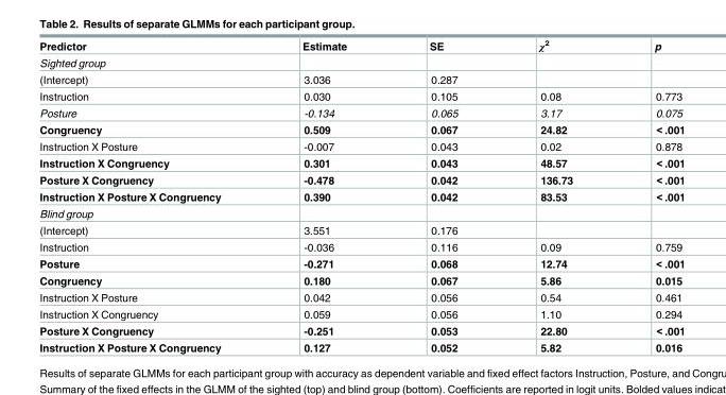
<table><thead><tr><td>Predictor</td><td>Estimate</td><td>SE</td><td>χ<sup>2</sup></td><td>p</td></tr></thead><tbody><tr><td colspan="5">Sighted group</td></tr><tr><td>(Intercept)</td><td>3.036</td><td>0.287</td><td></td><td></td></tr><tr><td>Instruction</td><td>0.030</td><td>0.105</td><td>0.08</td><td>0.773</td></tr><tr><td>Posture</td><td>-0.134</td><td>0.065</td><td>3.17</td><td>0.075</td></tr><tr><td>Congruency</td><td>0.509</td><td>0.067</td><td>24.82</td><td>&lt; .001</td></tr><tr><td>Instruction X Posture</td><td>-0.007</td><td>0.043</td><td>0.02</td><td>0.878</td></tr><tr><td>Instruction X Congruency</td><td>0.301</td><td>0.043</td><td>48.57</td><td>&lt; .001</td></tr><tr><td>Posture X Congruency</td><td>-0.478</td><td>0.042</td><td>136.73</td><td>&lt; .001</td></tr><tr><td>Instruction X Posture X Congruency</td><td>0.390</td><td>0.042</td><td>83.53</td><td>&lt; .001</td></tr><tr><td colspan="5">Blind group</td></tr><tr><td>(Intercept)</td><td>3.551</td><td>0.176</td><td></td><td></td></tr><tr><td>Instruction</td><td>-0.036</td><td>0.116</td><td>0.09</td><td>0.759</td></tr><tr><td>Posture</td><td>-0.271</td><td>0.068</td><td>12.74</td><td>&lt; .001</td></tr><tr><td>Congruency</td><td>0.180</td><td>0.067</td><td>5.86</td><td>0.015</td></tr><tr><td>Instruction X Posture</td><td>0.042</td><td>0.056</td><td>0.54</td><td>0.461</td></tr><tr><td>Instruction X Congruency</td><td>0.059</td><td>0.056</td><td>1.10</td><td>0.294</td></tr><tr><td>Posture X Congruency</td><td>-0.251</td><td>0.053</td><td>22.80</td><td>&lt; .001</td></tr><tr><td>Instruction X Posture X Congruency</td><td>0.127</td><td>0.052</td><td>5.82</td><td>0.016</td></tr></tbody></table>